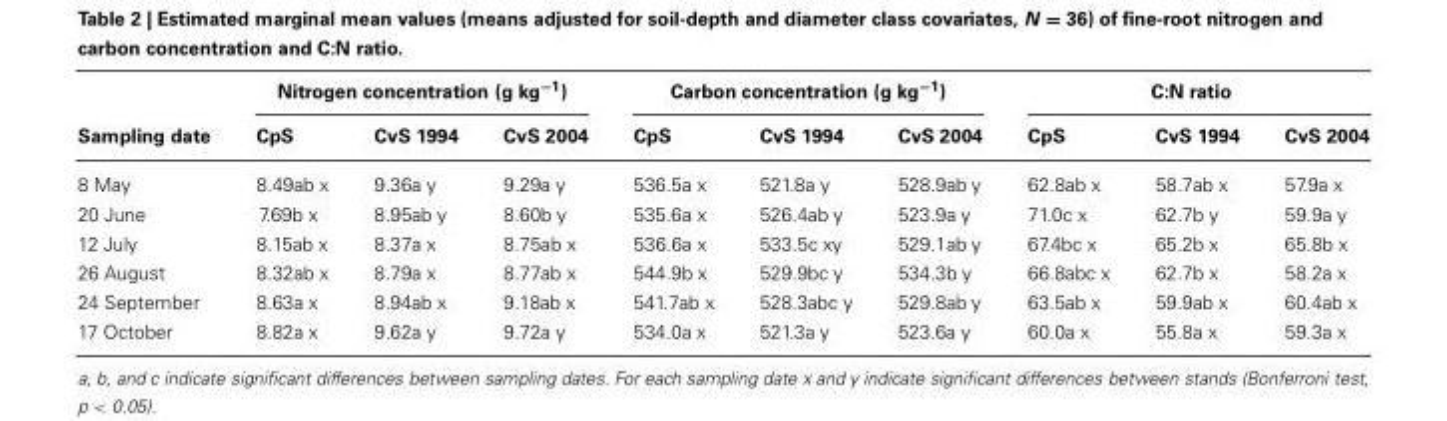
<table><thead><tr><td rowspan="2">Sampling date</td><td colspan="3">Nitrogen concentration (g kg<sup>−1</sup>)</td><td colspan="3">Carbon concentration (g kg<sup>−1</sup>)</td><td colspan="3">C:N ratio</td></tr><tr><td>CpS</td><td>CvS 1994</td><td>CvS 2004</td><td>CpS</td><td>CvS 1994</td><td>CvS 2004</td><td>CpS</td><td>CvS 1994</td><td>CvS 2004</td></tr></thead><tbody><tr><td>8 May</td><td>8.49ab x</td><td>9.36a y</td><td>9.29a y</td><td>536.5a x</td><td>521.8a y</td><td>528.9ab y</td><td>62.8ab x</td><td>58.7ab x</td><td>57.9a x</td></tr><tr><td>20 June</td><td>7.69b x</td><td>8.95ab y</td><td>8.60b y</td><td>535.6a x</td><td>526.4ab y</td><td>523.9a y</td><td>71.0c x</td><td>62.7b y</td><td>59.9a y</td></tr><tr><td>12 July</td><td>8.15ab x</td><td>8.37a x</td><td>8.75ab x</td><td>536.6a x</td><td>533.5c xy</td><td>529.1ab y</td><td>67.4bc x</td><td>65.2b x</td><td>65.8b x</td></tr><tr><td>26 August</td><td>8.32ab x</td><td>8.79a x</td><td>8.77ab x</td><td>544.9b x</td><td>529.9bc y</td><td>534.3b y</td><td>66.8abc x</td><td>62.7b x</td><td>58.2a x</td></tr><tr><td>24 September</td><td>8.63a x</td><td>8.94ab x</td><td>9.18ab x</td><td>541.7ab x</td><td>528.3abc y</td><td>529.8ab y</td><td>63.5ab x</td><td>59.9ab x</td><td>60.4ab x</td></tr><tr><td>17 October</td><td>8.82a x</td><td>9.62a y</td><td>9.72a y</td><td>534.0a x</td><td>521.3a y</td><td>523.6a y</td><td>60.0a x</td><td>55.8a x</td><td>59.3a x</td></tr></tbody></table>